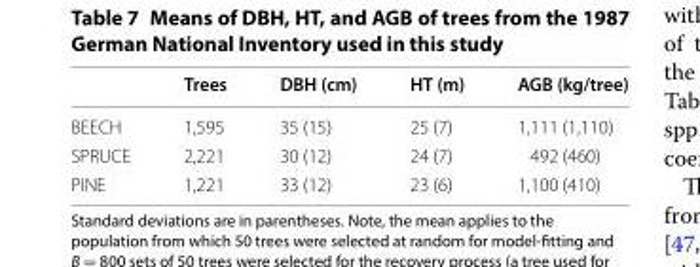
<table><thead><tr><td></td><td>Trees</td><td>DBH (cm)</td><td>HT (m)</td><td>AGB (kg/tree)</td></tr></thead><tbody><tr><td>BEECH</td><td>1,595</td><td>35 (15)</td><td>25 (7)</td><td>1,111 (1,110)</td></tr><tr><td>SPRUCE</td><td>2,221</td><td>30 (12)</td><td>24 (7)</td><td>492 (460)</td></tr><tr><td>PINE</td><td>1,221</td><td>33 (12)</td><td>23 (6)</td><td>1,100 (410)</td></tr></tbody></table>